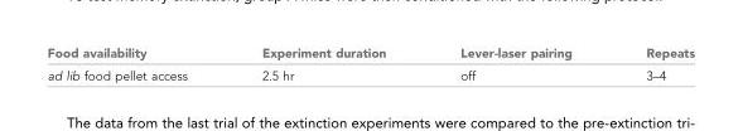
<table><thead><tr><td>Food availability</td><td>Experiment duration</td><td>Lever-laser pairing</td><td>Repeats</td></tr></thead><tbody><tr><td>ad lib food pellet access</td><td>2.5 hr</td><td>off</td><td>3–4</td></tr></tbody></table>